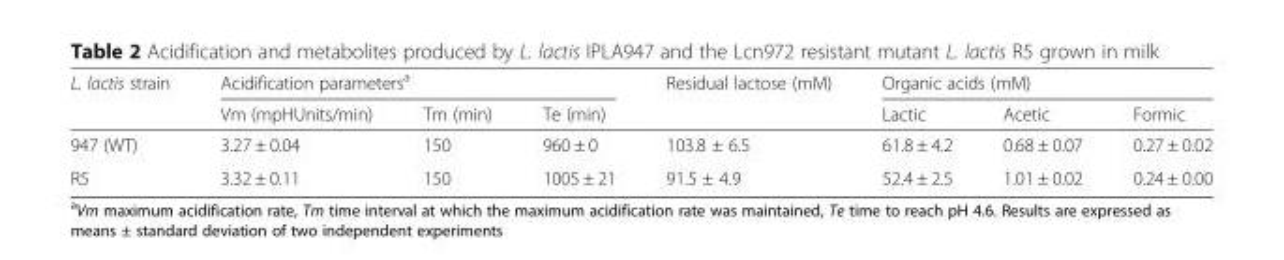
<table><thead><tr><td rowspan="2">L. lactis strain</td><td colspan="3">Acidification parameters<sup>a</sup></td><td rowspan="2">Residual lactose (mM)</td><td colspan="3">Organic acids (mM)</td></tr><tr><td>Vm (mpHUnits/min)</td><td>Tm (min)</td><td>Te (min)</td><td>Lactic</td><td>Acetic</td><td>Formic</td></tr></thead><tbody><tr><td>947 (WT)</td><td>3.27 ± 0.04</td><td>150</td><td>960 ± 0</td><td>103.8 ± 6.5</td><td>61.8 ± 4.2</td><td>0.68 ± 0.07</td><td>0.27 ± 0.02</td></tr><tr><td>R5</td><td>3.32 ± 0.11</td><td>150</td><td>1005 ± 21</td><td>91.5 ± 4.9</td><td>52.4 ± 2.5</td><td>1.01 ± 0.02</td><td>0.24 ± 0.00</td></tr></tbody></table>